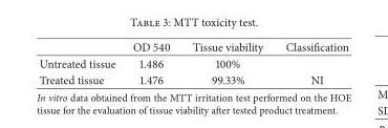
<table><thead><tr><td></td><td>OD 540</td><td>Tissue viability</td><td>Classification</td></tr></thead><tbody><tr><td>Untreated tissue</td><td>1.486</td><td>100%</td><td></td></tr><tr><td>Treated tissue</td><td>1.476</td><td>99.33%</td><td>NI</td></tr></tbody></table>